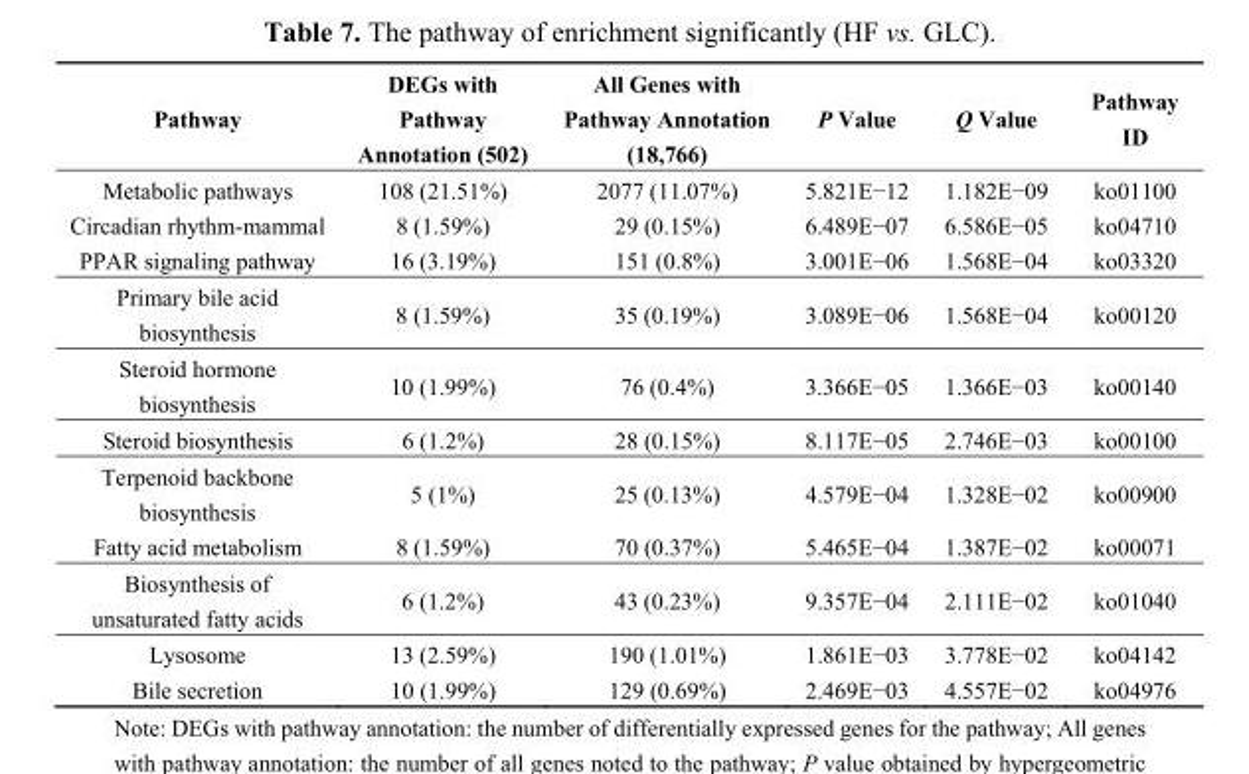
<table><thead><tr><td>Pathway</td><td>DEGs with Pathway Annotation (502)</td><td>All Genes with Pathway Annotation (18,766)</td><td>P Value</td><td>Q Value</td><td>Pathway ID</td></tr></thead><tbody><tr><td>Metabolic pathways</td><td>108 (21.51%)</td><td>2077 (11.07%)</td><td>5.821E−12</td><td>1.182E−09</td><td>ko01100</td></tr><tr><td>Circadian rhythm-mammal</td><td>8 (1.59%)</td><td>29 (0.15%)</td><td>6.489E−07</td><td>6.586E−05</td><td>ko04710</td></tr><tr><td>PPAR signaling pathway</td><td>16 (3.19%)</td><td>151 (0.8%)</td><td>3.001E−06</td><td>1.568E−04</td><td>ko03320</td></tr><tr><td>Primary bile acid biosynthesis</td><td>8 (1.59%)</td><td>35 (0.19%)</td><td>3.089E−06</td><td>1.568E−04</td><td>ko00120</td></tr><tr><td>Steroid hormone biosynthesis</td><td>10 (1.99%)</td><td>76 (0.4%)</td><td>3.366E−05</td><td>1.366E−03</td><td>ko00140</td></tr><tr><td>Steroid biosynthesis</td><td>6 (1.2%)</td><td>28 (0.15%)</td><td>8.117E−05</td><td>2.746E−03</td><td>ko00100</td></tr><tr><td>Terpenoid backbone biosynthesis</td><td>5 (1%)</td><td>25 (0.13%)</td><td>4.579E−04</td><td>1.328E−02</td><td>ko00900</td></tr><tr><td>Fatty acid metabolism</td><td>8 (1.59%)</td><td>70 (0.37%)</td><td>5.465E−04</td><td>1.387E−02</td><td>ko00071</td></tr><tr><td>Biosynthesis of unsaturated fatty acids</td><td>6 (1.2%)</td><td>43 (0.23%)</td><td>9.357E−04</td><td>2.111E−02</td><td>ko01040</td></tr><tr><td>Lysosome</td><td>13 (2.59%)</td><td>190 (1.01%)</td><td>1.861E−03</td><td>3.778E−02</td><td>ko04142</td></tr><tr><td>Bile secretion</td><td>10 (1.99%)</td><td>129 (0.69%)</td><td>2.469E−03</td><td>4.557E−02</td><td>ko04976</td></tr></tbody></table>